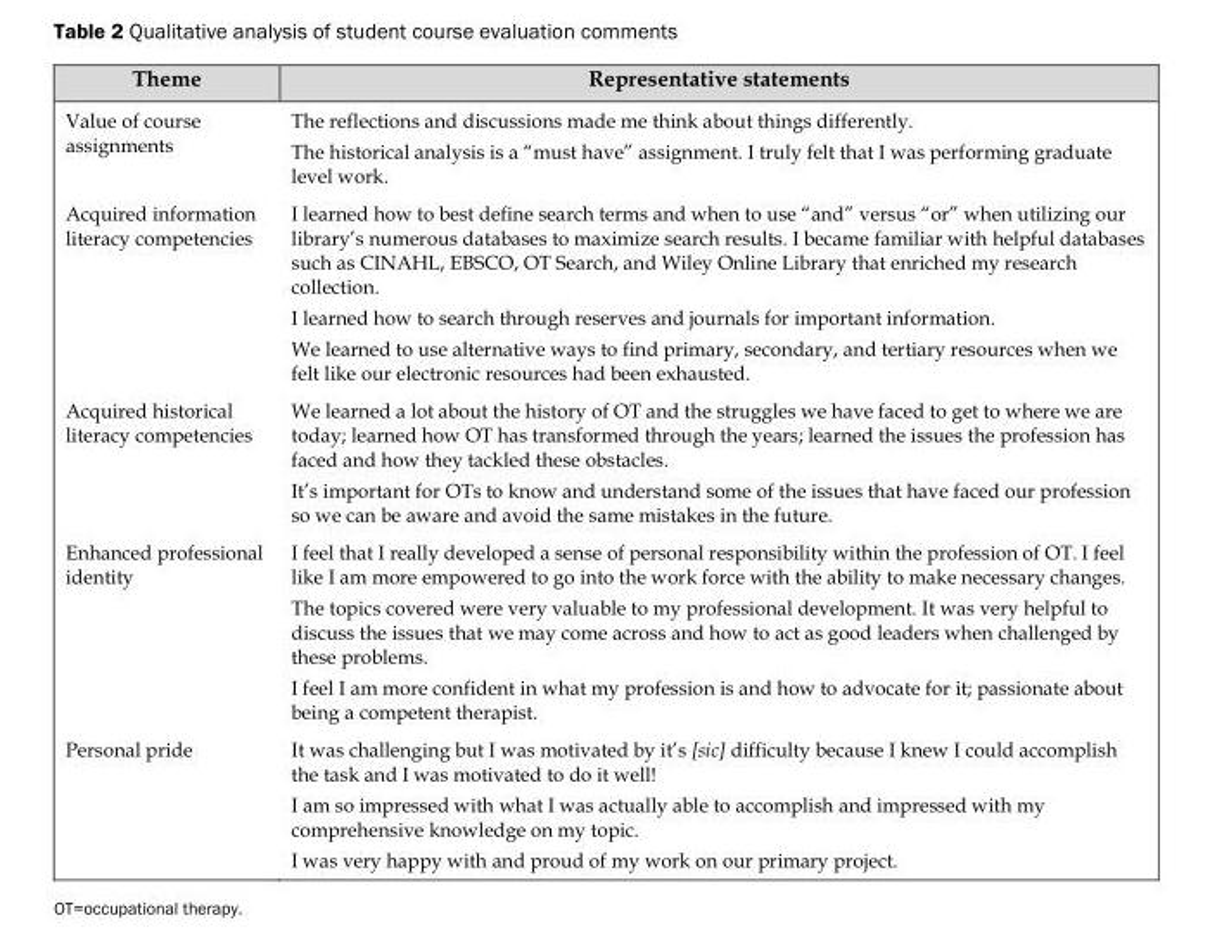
<table><thead><tr><td>Theme</td><td>Representative statements</td></tr></thead><tbody><tr><td>Value of course assignments</td><td>The reflections and discussions made me think about things differently. The historical analysis is a “must have” assignment. I truly felt that I was performing graduate level work.</td></tr><tr><td>Acquired information literacy competencies</td><td>I learned how to best define search terms and when to use “and” versus “or” when utilizing our library’s numerous databases to maximize search results. I became familiar with helpful databases such as CINAHL, EBSCO, OT Search, and Wiley Online Library that enriched my research collection. I learned how to search through reserves and journals for important information. We learned to use alternative ways to find primary, secondary, and tertiary resources when we felt like our electronic resources had been exhausted.</td></tr><tr><td>Acquired historical literacy competencies</td><td>We learned a lot about the history of OT and the struggles we have faced to get to where we are today; learned how OT has transformed through the years; learned the issues the profession has faced and how they tackled these obstacles. It’s important for OTs to know and understand some of the issues that have faced our profession so we can be aware and avoid the same mistakes in the future.</td></tr><tr><td>Enhanced professional identity</td><td>I feel that I really developed a sense of personal responsibility within the profession of OT. I feel like I am more empowered to go into the work force with the ability to make necessary changes. The topics covered were very valuable to my professional development. It was very helpful to discuss the issues that we may come across and how to act as good leaders when challenged by these problems. I feel I am more confident in what my profession is and how to advocate for it; passionate about being a competent therapist.</td></tr><tr><td>Personal pride</td><td>It was challenging but I was motivated by it’s [sic] difficulty because I knew I could accomplish the task and I was motivated to do it well! I am so impressed with what I was actually able to accomplish and impressed with my comprehensive knowledge on my topic. I was very happy with and proud of my work on our primary project.</td></tr></tbody></table>